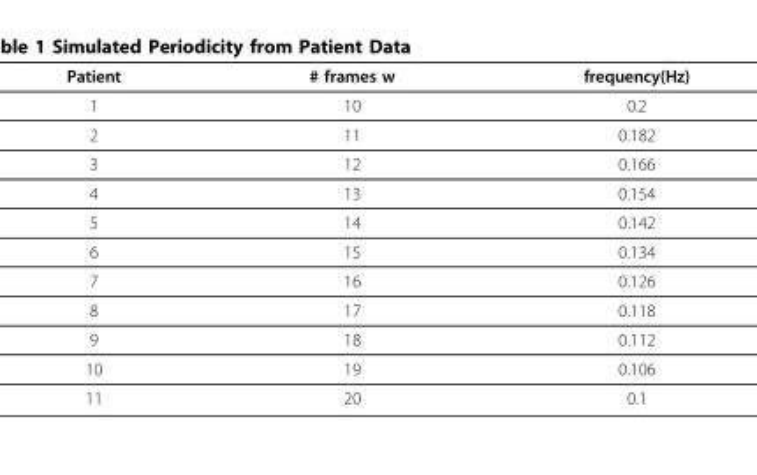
<table><thead><tr><td>Patient</td><td># frames w</td><td>frequency(Hz)</td></tr></thead><tbody><tr><td>1</td><td>10</td><td>0.2</td></tr><tr><td>2</td><td>11</td><td>0.182</td></tr><tr><td>3</td><td>12</td><td>0.166</td></tr><tr><td>4</td><td>13</td><td>0.154</td></tr><tr><td>5</td><td>14</td><td>0.142</td></tr><tr><td>6</td><td>15</td><td>0.134</td></tr><tr><td>7</td><td>16</td><td>0.126</td></tr><tr><td>8</td><td>17</td><td>0.118</td></tr><tr><td>9</td><td>18</td><td>0.112</td></tr><tr><td>10</td><td>19</td><td>0.106</td></tr><tr><td>11</td><td>20</td><td>0.1</td></tr></tbody></table>